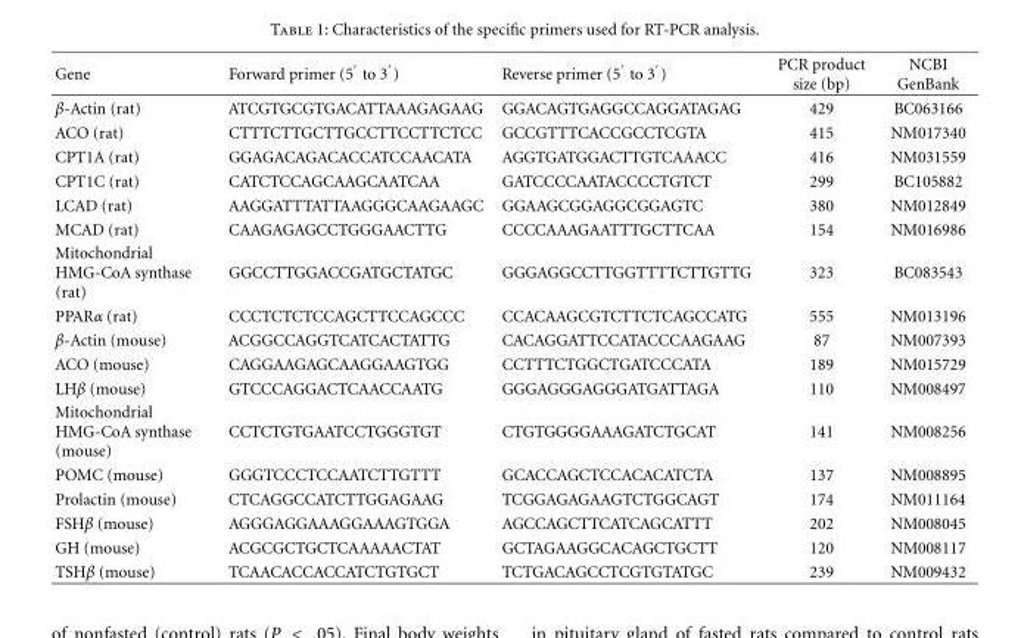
<table><thead><tr><td>Gene</td><td>Forward primer (5 ′ to 3 ′)</td><td>Reverse primer (5 ′ to 3 ′)</td><td>PCR product size (bp)</td><td>NCBI GenBank</td></tr></thead><tbody><tr><td>β-Actin (rat)</td><td>ATCGTGCGTGACATTAAAGAGAAG</td><td>GGACAGTGAGGCCAGGATAGAG</td><td>429</td><td>BC063166</td></tr><tr><td>ACO (rat)</td><td>CTTTCTTGCTTGCCTTCCTTCTCC</td><td>GCCGTTTCACCGCCTCGTA</td><td>415</td><td>NM017340</td></tr><tr><td>CPT1A (rat)</td><td>GGAGACAGACACCATCCAACATA</td><td>AGGTGATGGACTTGTCAAACC</td><td>416</td><td>NM031559</td></tr><tr><td>CPT1C (rat)</td><td>CATCTCCAGCAAGCAATCAA</td><td>GATCCCCAATACCCCTGTCT</td><td>299</td><td>BC105882</td></tr><tr><td>LCAD (rat)</td><td>AAGGATTTATTAAGGGCAAGAAGC</td><td>GGAAGCGGAGGCGGAGTC</td><td>380</td><td>NM012849</td></tr><tr><td>MCAD (rat)</td><td>CAAGAGAGCCTGGGAACTTG</td><td>CCCCAAAGAATTTGCTTCAA</td><td>154</td><td>NM016986</td></tr><tr><td>Mitochondrial HMG-CoA synthase (rat)</td><td>GGCCTTGGACCGATGCTATGC</td><td>GGGAGGCCTTGGTTTTCTTGTTG</td><td>323</td><td>BC083543</td></tr><tr><td>PPARα (rat)</td><td>CCCTCTCTCCAGCTTCCAGCCC</td><td>CCACAAGCGTCTTCTCAGCCATG</td><td>555</td><td>NM013196</td></tr><tr><td>β-Actin (mouse)</td><td>ACGGCCAGGTCATCACTATTG</td><td>CACAGGATTCCATACCCAAGAAG</td><td>87</td><td>NM007393</td></tr><tr><td>ACO (mouse)</td><td>CAGGAAGAGCAAGGAAGTGG</td><td>CCTTTCTGGCTGATCCCATA</td><td>189</td><td>NM015729</td></tr><tr><td>LHβ (mouse)</td><td>GTCCCAGGACTCAACCAATG</td><td>GGGAGGGAGGGATGATTAGA</td><td>110</td><td>NM008497</td></tr><tr><td>Mitochondrial HMG-CoA synthase (mouse)</td><td>CCTCTGTGAATCCTGGGTGT</td><td>CTGTGGGGAAAGATCTGCAT</td><td>141</td><td>NM008256</td></tr><tr><td>POMC (mouse)</td><td>GGGTCCCTCCAATCTTGTTT</td><td>GCACCAGCTCCACACATCTA</td><td>137</td><td>NM008895</td></tr><tr><td>Prolactin (mouse)</td><td>CTCAGGCCATCTTGGAGAAG</td><td>TCGGAGAGAAGTCTGGCAGT</td><td>174</td><td>NM011164</td></tr><tr><td>FSHβ (mouse)</td><td>AGGGAGGAAAGGAAAGTGGA</td><td>AGCCAGCTTCATCAGCATTT</td><td>202</td><td>NM008045</td></tr><tr><td>GH (mouse)</td><td>ACGCGCTGCTCAAAAACTAT</td><td>GCTAGAAGGCACAGCTGCTT</td><td>120</td><td>NM008117</td></tr><tr><td>TSHβ (mouse)</td><td>TCAACACCACCATCTGTGCT</td><td>TCTGACAGCCTCGTGTATGC</td><td>239</td><td>NM009432</td></tr></tbody></table>